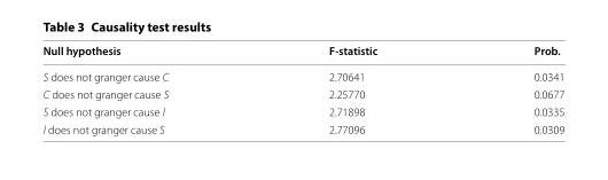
<table><thead><tr><td>Null hypothesis</td><td>F-statistic</td><td>Prob.</td></tr></thead><tbody><tr><td>S does not granger cause C</td><td>2.70641</td><td>0.0341</td></tr><tr><td>C does not granger cause S</td><td>2.25770</td><td>0.0677</td></tr><tr><td>S does not granger cause l</td><td>2.71898</td><td>0.0335</td></tr><tr><td>l does not granger cause S</td><td>2.77096</td><td>0.0309</td></tr></tbody></table>